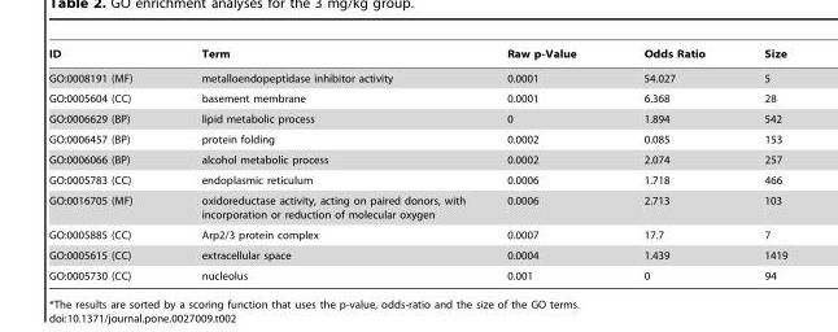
<table><thead><tr><td>ID</td><td>Term</td><td>Raw p-Value</td><td>Odds Ratio</td><td>Size</td></tr></thead><tbody><tr><td>GO:0008191 (MF)</td><td>metalloendopeptidase inhibitor activity</td><td>0.0001</td><td>54.027</td><td>5</td></tr><tr><td>GO:0005604 (CC)</td><td>basement membrane</td><td>0.0001</td><td>6.368</td><td>28</td></tr><tr><td>GO:0006629 (BP)</td><td>lipid metabolic process</td><td>0</td><td>1.894</td><td>542</td></tr><tr><td>GO:0006457 (BP)</td><td>protein folding</td><td>0.0002</td><td>0.085</td><td>153</td></tr><tr><td>GO:0006066 (BP)</td><td>alcohol metabolic process</td><td>0.0002</td><td>2.074</td><td>257</td></tr><tr><td>GO:0005783 (CC)</td><td>endoplasmic reticulum</td><td>0.0006</td><td>1.718</td><td>466</td></tr><tr><td>GO:0016705 (MF)</td><td>oxidoreductase activity, acting on paired donors, with incorporation or reduction of molecular oxygen</td><td>0.0006</td><td>2.713</td><td>103</td></tr><tr><td>GO:0005885 (CC)</td><td>Arp2/3 protein complex</td><td>0.0007</td><td>17.7</td><td>7</td></tr><tr><td>GO:0005615 (CC)</td><td>extracellular space</td><td>0.0004</td><td>1.439</td><td>1419</td></tr><tr><td>GO:0005730 (CC)</td><td>nucleolus</td><td>0.001</td><td>0</td><td>94</td></tr></tbody></table>